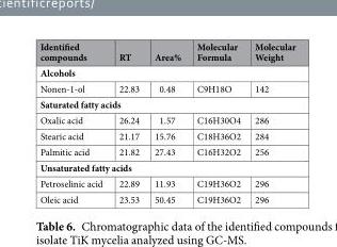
<table><thead><tr><td>Identified compounds</td><td>RT</td><td>Area%</td><td>Molecular Formula</td><td>Molecular Weight</td></tr></thead><tbody><tr><td colspan="5">Alcohols</td></tr><tr><td>Nonen-1-ol</td><td>22.83</td><td>0.48</td><td>C9H18O</td><td>142</td></tr><tr><td colspan="5">Saturated fatty acids</td></tr><tr><td>Oxalic acid</td><td>26.24</td><td>1.57</td><td>C16H30O4</td><td>286</td></tr><tr><td>Stearic acid</td><td>21.17</td><td>15.76</td><td>C18H36O2</td><td>284</td></tr><tr><td>Palmitic acid</td><td>21.82</td><td>27.43</td><td>C16H32O2</td><td>256</td></tr><tr><td colspan="5">Unsaturated fatty acids</td></tr><tr><td>Petroselinic acid</td><td>22.89</td><td>11.93</td><td>C19H36O2</td><td>296</td></tr><tr><td>Oleic acid</td><td>23.53</td><td>50.45</td><td>C19H36O2</td><td>296</td></tr></tbody></table>